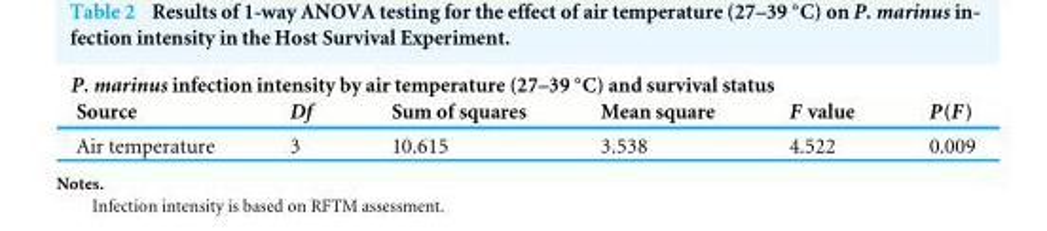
<table><thead><tr><td colspan="6">P. marinus infection intensity by air temperature (27–39 ◦C) and survival status</td></tr><tr><td>Source</td><td>Df</td><td>Sum of squares</td><td>Mean square</td><td>F value</td><td>P(F)</td></tr></thead><tbody><tr><td>Air temperature</td><td>3</td><td>10.615</td><td>3.538</td><td>4.522</td><td>0.009</td></tr></tbody></table>